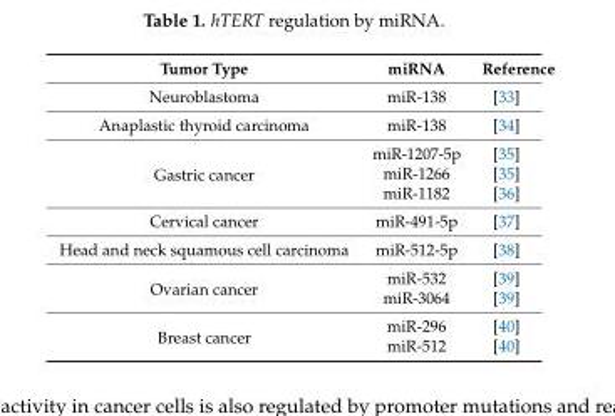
<table><thead><tr><td>Tumor Type</td><td>miRNA</td><td>Reference</td></tr></thead><tbody><tr><td>Neuroblastoma</td><td>miR-138</td><td>[33]</td></tr><tr><td>Anaplastic thyroid carcinoma</td><td>miR-138</td><td>[34]</td></tr><tr><td rowspan="3">Gastric cancer</td><td>miR-1207-5p</td><td>[35]</td></tr><tr><td>miR-1266</td><td>[35]</td></tr><tr><td>miR-1182</td><td>[36]</td></tr><tr><td>Cervical cancer</td><td>miR-491-5p</td><td>[37]</td></tr><tr><td>Head and neck squamous cell carcinoma</td><td>miR-512-5p</td><td>[38]</td></tr><tr><td rowspan="2">Ovarian cancer</td><td>miR-532</td><td>[39]</td></tr><tr><td>miR-3064</td><td>[39]</td></tr><tr><td rowspan="2">Breast cancer</td><td>miR-296</td><td>[40]</td></tr><tr><td>miR-512</td><td>[40]</td></tr></tbody></table>